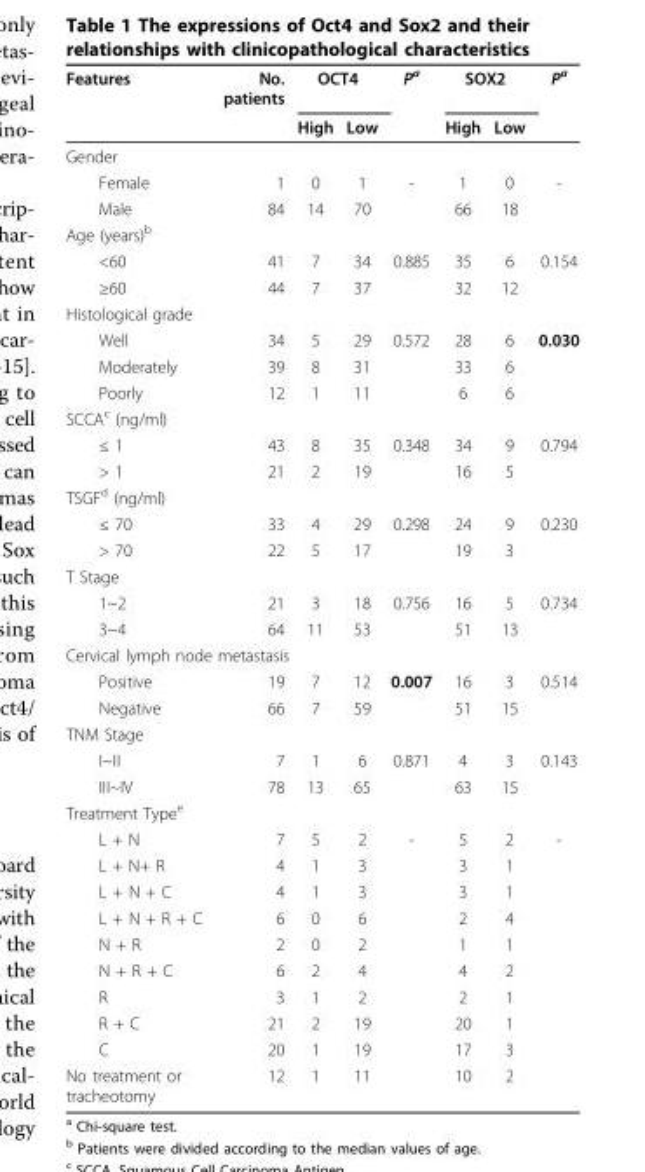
<table><thead><tr><td rowspan="2">Features</td><td rowspan="2">No. patients</td><td colspan="2">OCT4</td><td rowspan="2">P<sup>a</sup></td><td colspan="2">SOX2</td><td rowspan="2">P<sup>a</sup></td></tr><tr><td>High</td><td>Low</td><td>High</td><td>Low</td></tr></thead><tbody><tr><td colspan="8">Gender</td></tr><tr><td>Female</td><td>1</td><td>0</td><td>1</td><td>-</td><td>1</td><td>0</td><td>-</td></tr><tr><td>Male</td><td>84</td><td>14</td><td>70</td><td></td><td>66</td><td>18</td><td></td></tr><tr><td colspan="8">Age (years)<sup>b</sup></td></tr><tr><td>&lt;60</td><td>41</td><td>7</td><td>34</td><td>0.885</td><td>35</td><td>6</td><td>0.154</td></tr><tr><td>≥60</td><td>44</td><td>7</td><td>37</td><td></td><td>32</td><td>12</td><td></td></tr><tr><td colspan="8">Histological grade</td></tr><tr><td>Well</td><td>34</td><td>5</td><td>29</td><td>0.572</td><td>28</td><td>6</td><td>0.030</td></tr><tr><td>Moderately</td><td>39</td><td>8</td><td>31</td><td></td><td>33</td><td>6</td><td></td></tr><tr><td>Poorly</td><td>12</td><td>1</td><td>11</td><td></td><td>6</td><td>6</td><td></td></tr><tr><td colspan="8">SCCA<sup>c</sup> (ng/ml)</td></tr><tr><td>≤ 1</td><td>43</td><td>8</td><td>35</td><td>0.348</td><td>34</td><td>9</td><td>0.794</td></tr><tr><td>&gt; 1</td><td>21</td><td>2</td><td>19</td><td></td><td>16</td><td>5</td><td></td></tr><tr><td colspan="8">TSGF<sup>d</sup> (ng/ml)</td></tr><tr><td>≤ 70</td><td>33</td><td>4</td><td>29</td><td>0.298</td><td>24</td><td>9</td><td>0.230</td></tr><tr><td>&gt; 70</td><td>22</td><td>5</td><td>17</td><td></td><td>19</td><td>3</td><td></td></tr><tr><td colspan="8">T Stage</td></tr><tr><td>1~2</td><td>21</td><td>3</td><td>18</td><td>0.756</td><td>16</td><td>5</td><td>0.734</td></tr><tr><td>3~4</td><td>64</td><td>11</td><td>53</td><td></td><td>51</td><td>13</td><td></td></tr><tr><td colspan="8">Cervical lymph node metastasis</td></tr><tr><td>Positive</td><td>19</td><td>7</td><td>12</td><td>0.007</td><td>16</td><td>3</td><td>0.514</td></tr><tr><td>Negative</td><td>66</td><td>7</td><td>59</td><td></td><td>51</td><td>15</td><td></td></tr><tr><td colspan="8">TNM Stage</td></tr><tr><td>I~II</td><td>7</td><td>1</td><td>6</td><td>0.871</td><td>4</td><td>3</td><td>0.143</td></tr><tr><td>III~IV</td><td>78</td><td>13</td><td>65</td><td></td><td>63</td><td>15</td><td></td></tr><tr><td colspan="8">Treatment Type<sup>e</sup></td></tr><tr><td>L + N</td><td>7</td><td>5</td><td>2</td><td>-</td><td>5</td><td>2</td><td>-</td></tr><tr><td>L + N+ R</td><td>4</td><td>1</td><td>3</td><td></td><td>3</td><td>1</td><td></td></tr><tr><td>L + N + C</td><td>4</td><td>1</td><td>3</td><td></td><td>3</td><td>1</td><td></td></tr><tr><td>L + N + R + C</td><td>6</td><td>0</td><td>6</td><td></td><td>2</td><td>4</td><td></td></tr><tr><td>N + R</td><td>2</td><td>0</td><td>2</td><td></td><td>1</td><td>1</td><td></td></tr><tr><td>N + R + C</td><td>6</td><td>2</td><td>4</td><td></td><td>4</td><td>2</td><td></td></tr><tr><td>R</td><td>3</td><td>1</td><td>2</td><td></td><td>2</td><td>1</td><td></td></tr><tr><td>R + C</td><td>21</td><td>2</td><td>19</td><td></td><td>20</td><td>1</td><td></td></tr><tr><td>C</td><td>20</td><td>1</td><td>19</td><td></td><td>17</td><td>3</td><td></td></tr><tr><td>No treatment or tracheotomy</td><td>12</td><td>1</td><td>11</td><td></td><td>10</td><td>2</td><td></td></tr></tbody></table>